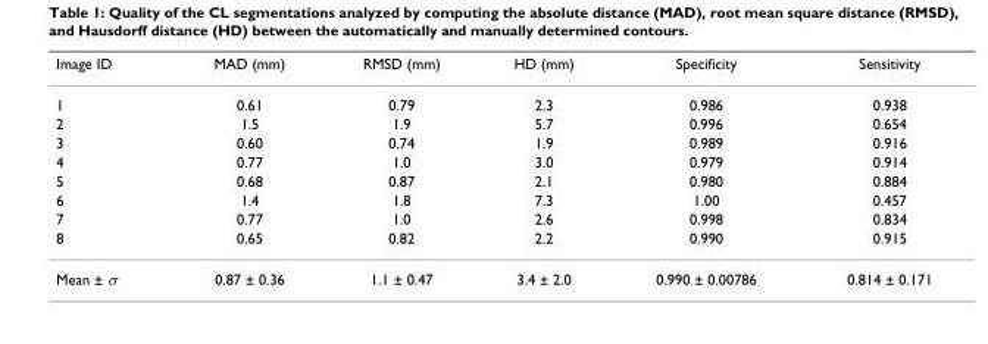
<table><thead><tr><td>Image ID</td><td>MAD (mm)</td><td>RMSD (mm)</td><td>HD (mm)</td><td>Specificity</td><td>Sensitivity</td></tr></thead><tbody><tr><td>1</td><td>0.61</td><td>0.79</td><td>2.3</td><td>0.986</td><td>0.938</td></tr><tr><td>2</td><td>1.5</td><td>1.9</td><td>5.7</td><td>0.996</td><td>0.654</td></tr><tr><td>3</td><td>0.60</td><td>0.74</td><td>1.9</td><td>0.989</td><td>0.916</td></tr><tr><td>4</td><td>0.77</td><td>1.0</td><td>3.0</td><td>0.979</td><td>0.914</td></tr><tr><td>5</td><td>0.68</td><td>0.87</td><td>2.1</td><td>0.980</td><td>0.884</td></tr><tr><td>6</td><td>1.4</td><td>1.8</td><td>7.3</td><td>1.00</td><td>0.457</td></tr><tr><td>7</td><td>0.77</td><td>1.0</td><td>2.6</td><td>0.998</td><td>0.834</td></tr><tr><td>8</td><td>0.65</td><td>0.82</td><td>2.2</td><td>0.990</td><td>0.915</td></tr><tr><td>Mean ± σ</td><td>0.87 ± 0.36</td><td>1.1 ± 0.47</td><td>3.4 ± 2.0</td><td>0.990 ± 0.00786</td><td>0.814 ± 0.171</td></tr></tbody></table>